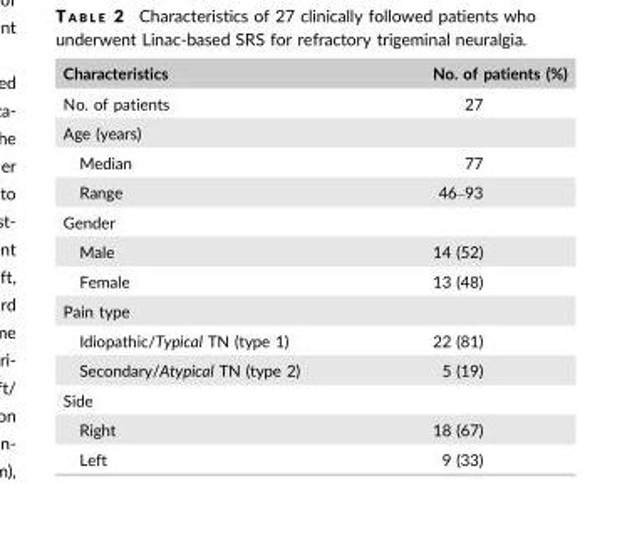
<table><thead><tr><td>Characteristics</td><td>No. of patients (%)</td></tr></thead><tbody><tr><td>No. of patients</td><td>27</td></tr><tr><td colspan="2">Age (years)</td></tr><tr><td>Median</td><td>77</td></tr><tr><td>Range</td><td>46–93</td></tr><tr><td colspan="2">Gender</td></tr><tr><td>Male</td><td>14 (52)</td></tr><tr><td>Female</td><td>13 (48)</td></tr><tr><td colspan="2">Pain type</td></tr><tr><td>Idiopathic/Typical TN (type 1)</td><td>22 (81)</td></tr><tr><td>Secondary/Atypical TN (type 2)</td><td>5 (19)</td></tr><tr><td colspan="2">Side</td></tr><tr><td>Right</td><td>18 (67)</td></tr><tr><td>Left</td><td>9 (33)</td></tr></tbody></table>